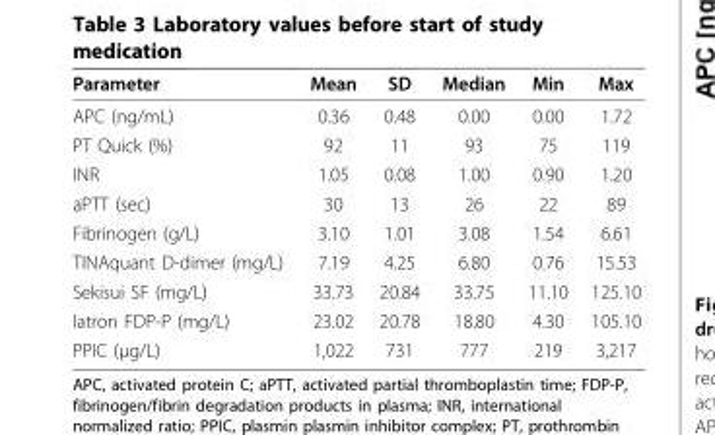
<table><thead><tr><td>Parameter</td><td>Mean</td><td>SD</td><td>Median</td><td>Min</td><td>Max</td></tr></thead><tbody><tr><td>APC (ng/mL)</td><td>0.36</td><td>0.48</td><td>0.00</td><td>0.00</td><td>1.72</td></tr><tr><td>PT Quick (%)</td><td>92</td><td>11</td><td>93</td><td>75</td><td>119</td></tr><tr><td>INR</td><td>1.05</td><td>0.08</td><td>1.00</td><td>0.90</td><td>1.20</td></tr><tr><td>aPTT (sec)</td><td>30</td><td>13</td><td>26</td><td>22</td><td>89</td></tr><tr><td>Fibrinogen (g/L)</td><td>3.10</td><td>1.01</td><td>3.08</td><td>1.54</td><td>6.61</td></tr><tr><td>TINAquant D-dimer (mg/L)</td><td>7.19</td><td>4.25</td><td>6.80</td><td>0.76</td><td>15.53</td></tr><tr><td>Sekisui SF (mg/L)</td><td>33.73</td><td>20.84</td><td>33.75</td><td>11.10</td><td>125.10</td></tr><tr><td>Iatron FDP-P (mg/L)</td><td>23.02</td><td>20.78</td><td>18.80</td><td>4.30</td><td>105.10</td></tr><tr><td>PPIC (μg/L)</td><td>1,022</td><td>731</td><td>777</td><td>219</td><td>3,217</td></tr></tbody></table>